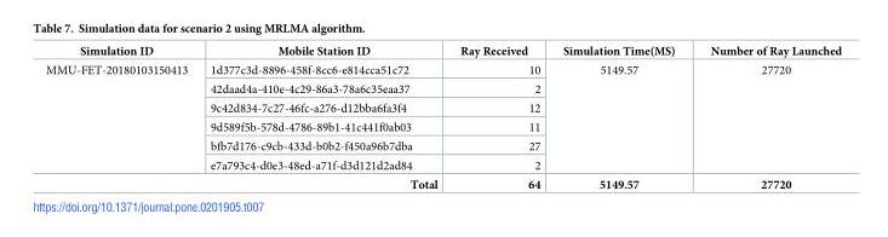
<table><thead><tr><td>Simulation ID</td><td>Mobile Station ID</td><td>Ray Received</td><td>Simulation Time(MS)</td><td>Number of Ray Launched</td></tr></thead><tbody><tr><td rowspan="6">MMU-FET-20180103150413</td><td>1d377c3d-8896-458f-8cc6-e814cca51c72</td><td>10</td><td rowspan="6">5149.57</td><td rowspan="6">27720</td></tr><tr><td>42daad4a-410e-4c29-86a3-78a6c35eaa37</td><td>2</td></tr><tr><td>9c42d834-7c27-46fc-a276-d12bba6fa3f4</td><td>12</td></tr><tr><td>9d589f5b-578d-4786-89b1-41c441f0ab03</td><td>11</td></tr><tr><td>bfb7d176-c9cb-433d-b0b2-f450a96b7dba</td><td>27</td></tr><tr><td>e7a793c4-d0e3-48ed-a71f-d3d121d2ad84</td><td>2</td></tr><tr><td colspan="2">Total</td><td>64</td><td>5149.57</td><td>27720</td></tr></tbody></table>